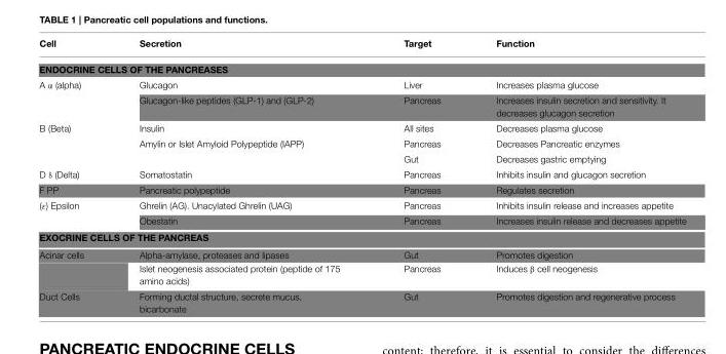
<table><thead><tr><td>Cell</td><td>Secretion</td><td>Target</td><td>Function</td></tr></thead><tbody><tr><td colspan="4">ENDOCRINE CELLS OF THE PANCREASES</td></tr><tr><td rowspan="2">A α (alpha)</td><td>Glucagon</td><td>Liver</td><td>Increases plasma glucose</td></tr><tr><td>Glucagon-like peptides (GLP-1) and (GLP-2)</td><td>Pancreas</td><td>Increases insulin secretion and sensitivity. It decreases glucagon secretion</td></tr><tr><td rowspan="3">B (Beta)</td><td>Insulin</td><td>All sites</td><td>Decreases plasma glucose</td></tr><tr><td>Amylin or Islet Amyloid Polypeptide (IAPP)</td><td>Pancreas</td><td>Decreases Pancreatic enzymes</td></tr><tr><td></td><td>Gut</td><td>Decreases gastric emptying</td></tr><tr><td>D δ (Delta)</td><td>Somatostatin</td><td>Pancreas</td><td>Inhibits insulin and glucagon secretion</td></tr><tr><td>F PP</td><td>Pancreatic polypeptide</td><td>Pancreas</td><td>Regulates secretion</td></tr><tr><td rowspan="2">(ε) Epsilon</td><td>Ghrelin (AG). Unacylated Ghrelin (UAG)</td><td>Pancreas</td><td>Inhibits insulin release and increases appetite</td></tr><tr><td>Obestatin</td><td>Pancreas</td><td>Increases insulin release and decreases appetite</td></tr><tr><td colspan="4">EXOCRINE CELLS OF THE PANCREAS</td></tr><tr><td rowspan="2">Acinar cells</td><td>Alpha-amylase, proteases and lipases</td><td>Gut</td><td>Promotes digestion</td></tr><tr><td>Islet neogenesis associated protein (peptide of 175 amino acids)</td><td>Pancreas</td><td>Induces β cell neogenesis</td></tr><tr><td>Duct Cells</td><td>Forming ductal structure, secrete mucus, bicarbonate</td><td>Gut</td><td>Promotes digestion and regenerative process</td></tr></tbody></table>